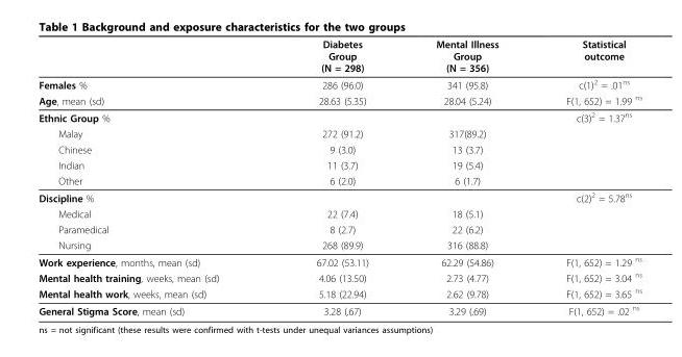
<table><thead><tr><td></td><td>Diabetes Group (N = 298)</td><td>Mental Illness Group (N = 356)</td><td>Statistical outcome</td></tr></thead><tbody><tr><td>Females %</td><td>286 (96.0)</td><td>341 (95.8)</td><td>c(1)<sup>2</sup> = .01<sup>ns</sup></td></tr><tr><td>Age, mean (sd)</td><td>28.63 (5.35)</td><td>28.04 (5.24)</td><td>F(1, 652) = 1.99 <sup>ns</sup></td></tr><tr><td>Ethnic Group %</td><td></td><td></td><td>c(3)<sup>2</sup> = 1.37<sup>ns</sup></td></tr><tr><td>Malay</td><td>272 (91.2)</td><td>317(89.2)</td><td></td></tr><tr><td>Chinese</td><td>9 (3.0)</td><td>13 (3.7)</td><td></td></tr><tr><td>Indian</td><td>11 (3.7)</td><td>19 (5.4)</td><td></td></tr><tr><td>Other</td><td>6 (2.0)</td><td>6 (1.7)</td><td></td></tr><tr><td>Discipline %</td><td></td><td></td><td>c(2)<sup>2</sup> = 5.78<sup>ns</sup></td></tr><tr><td>Medical</td><td>22 (7.4)</td><td>18 (5.1)</td><td></td></tr><tr><td>Paramedical</td><td>8 (2.7)</td><td>22 (6.2)</td><td></td></tr><tr><td>Nursing</td><td>268 (89.9)</td><td>316 (88.8)</td><td></td></tr><tr><td>Work experience, months, mean (sd)</td><td>67.02 (53.11)</td><td>62.29 (54.86)</td><td>F(1, 652) = 1.29 <sup>ns</sup></td></tr><tr><td>Mental health training, weeks, mean (sd)</td><td>4.06 (13.50)</td><td>2.73 (4.77)</td><td>F(1, 652) = 3.04 <sup>ns</sup></td></tr><tr><td>Mental health work, weeks, mean (sd)</td><td>5.18 (22.94)</td><td>2.62 (9.78)</td><td>F(1, 652) = 3.65 <sup>ns</sup></td></tr><tr><td>General Stigma Score, mean (sd)</td><td>3.28 (.67)</td><td>3.29 (.69)</td><td>F(1, 652) = .02 <sup>ns</sup></td></tr></tbody></table>